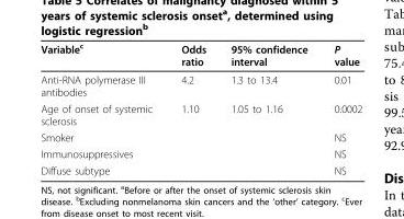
<table><thead><tr><td>Variable<sup>c</sup></td><td>Odds ratio</td><td>95% confidence interval</td><td>P value</td></tr></thead><tbody><tr><td>Anti-RNA polymerase III antibodies</td><td>4.2</td><td>1.3 to 13.4</td><td>0.01</td></tr><tr><td>Age of onset of systemic sclerosis</td><td>1.10</td><td>1.05 to 1.16</td><td>0.0002</td></tr><tr><td>Smoker</td><td></td><td></td><td>NS</td></tr><tr><td>Immunosuppressives</td><td></td><td></td><td>NS</td></tr><tr><td>Diffuse subtype</td><td></td><td></td><td>NS</td></tr></tbody></table>